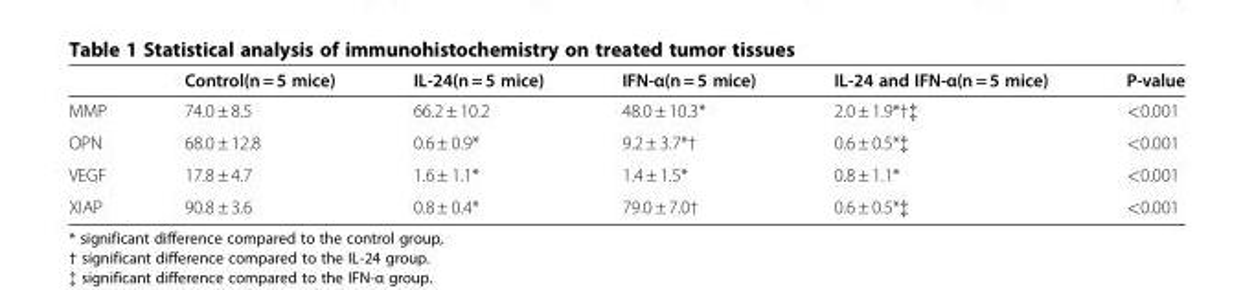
<table><thead><tr><td></td><td>Control(n = 5 mice)</td><td>IL-24(n = 5 mice)</td><td>IFN-α(n = 5 mice)</td><td>IL-24 and IFN-α(n = 5 mice)</td><td>P-value</td></tr></thead><tbody><tr><td>MMP</td><td>74.0 ± 8.5</td><td>66.2 ± 10.2</td><td>48.0 ± 10.3*</td><td>2.0 ± 1.9*†‡</td><td>&lt;0.001</td></tr><tr><td>OPN</td><td>68.0 ± 12.8</td><td>0.6 ± 0.9*</td><td>9.2 ± 3.7*†</td><td>0.6 ± 0.5*‡</td><td>&lt;0.001</td></tr><tr><td>VEGF</td><td>17.8 ± 4.7</td><td>1.6 ± 1.1*</td><td>1.4 ± 1.5*</td><td>0.8 ± 1.1*</td><td>&lt;0.001</td></tr><tr><td>XIAP</td><td>90.8 ± 3.6</td><td>0.8 ± 0.4*</td><td>79.0 ± 7.0†</td><td>0.6 ± 0.5*‡</td><td>&lt;0.001</td></tr></tbody></table>